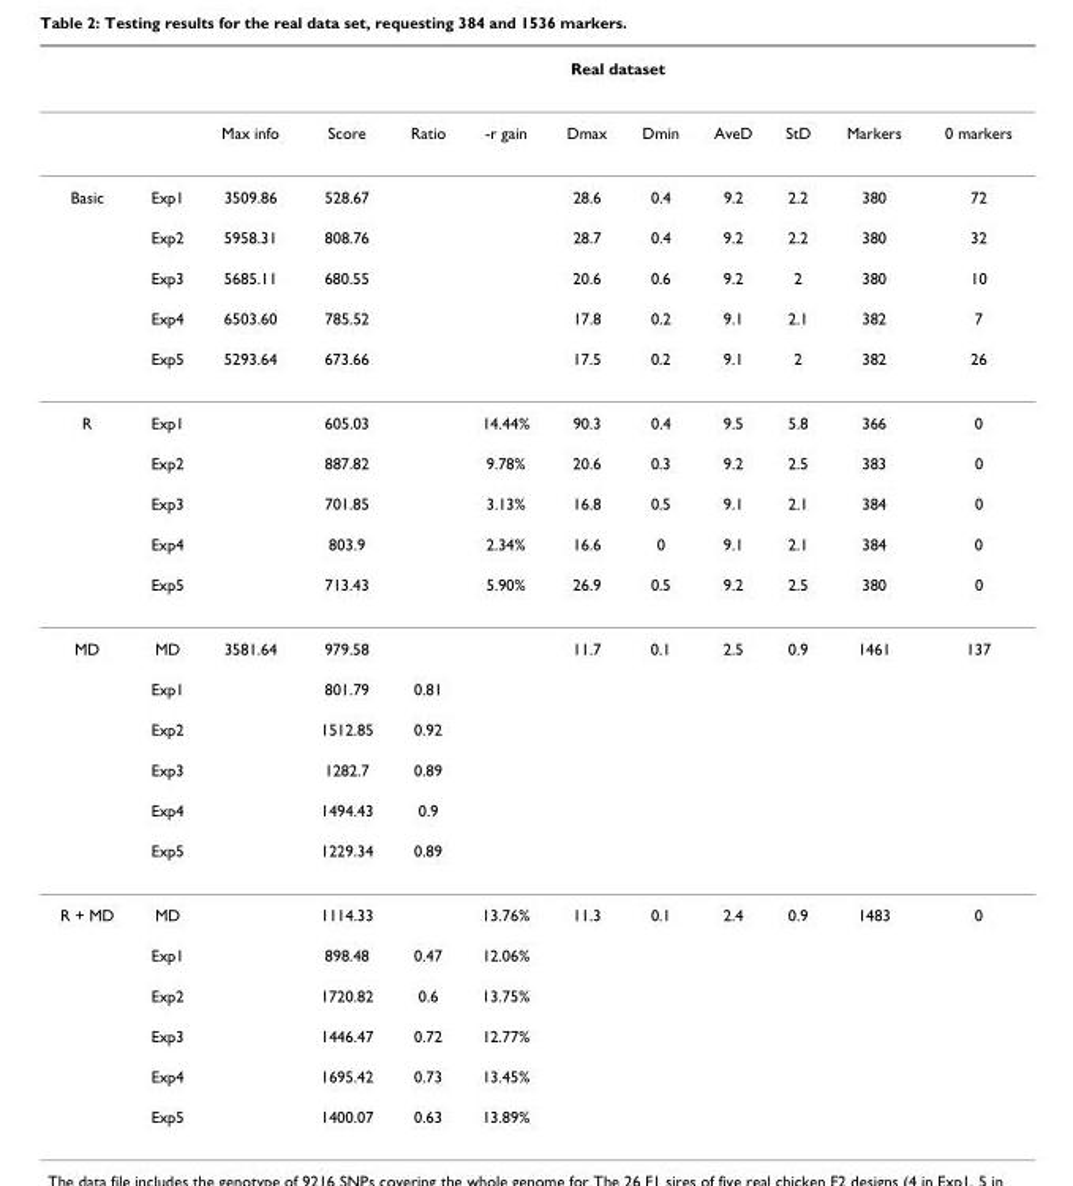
<table><thead><tr><td rowspan="2"></td><td rowspan="2"></td><td colspan="10">Real dataset</td></tr><tr><td>Max info</td><td>Score</td><td>Ratio</td><td>-r gain</td><td>Dmax</td><td>Dmin</td><td>AveD</td><td>StD</td><td>Markers</td><td>0 markers</td></tr></thead><tbody><tr><td rowspan="5">Basic</td><td>Exp1</td><td>3509.86</td><td>528.67</td><td></td><td></td><td>28.6</td><td>0.4</td><td>9.2</td><td>2.2</td><td>380</td><td>72</td></tr><tr><td>Exp2</td><td>5958.31</td><td>808.76</td><td></td><td></td><td>28.7</td><td>0.4</td><td>9.2</td><td>2.2</td><td>380</td><td>32</td></tr><tr><td>Exp3</td><td>5685.11</td><td>680.55</td><td></td><td></td><td>20.6</td><td>0.6</td><td>9.2</td><td>2</td><td>380</td><td>10</td></tr><tr><td>Exp4</td><td>6503.60</td><td>785.52</td><td></td><td></td><td>17.8</td><td>0.2</td><td>9.1</td><td>2.1</td><td>382</td><td>7</td></tr><tr><td>Exp5</td><td>5293.64</td><td>673.66</td><td></td><td></td><td>17.5</td><td>0.2</td><td>9.1</td><td>2</td><td>382</td><td>26</td></tr><tr><td rowspan="5">R</td><td>Exp1</td><td></td><td>605.03</td><td></td><td>14.44%</td><td>90.3</td><td>0.4</td><td>9.5</td><td>5.8</td><td>366</td><td>0</td></tr><tr><td>Exp2</td><td></td><td>887.82</td><td></td><td>9.78%</td><td>20.6</td><td>0.3</td><td>9.2</td><td>2.5</td><td>383</td><td>0</td></tr><tr><td>Exp3</td><td></td><td>701.85</td><td></td><td>3.13%</td><td>16.8</td><td>0.5</td><td>9.1</td><td>2.1</td><td>384</td><td>0</td></tr><tr><td>Exp4</td><td></td><td>803.9</td><td></td><td>2.34%</td><td>16.6</td><td>0</td><td>9.1</td><td>2.1</td><td>384</td><td>0</td></tr><tr><td>Exp5</td><td></td><td>713.43</td><td></td><td>5.90%</td><td>26.9</td><td>0.5</td><td>9.2</td><td>2.5</td><td>380</td><td>0</td></tr><tr><td rowspan="6">MD</td><td>MD</td><td>3581.64</td><td>979.58</td><td></td><td></td><td>11.7</td><td>0.1</td><td>2.5</td><td>0.9</td><td>1461</td><td>137</td></tr><tr><td>Exp1</td><td></td><td>801.79</td><td>0.81</td><td></td><td></td><td></td><td></td><td></td><td></td><td></td></tr><tr><td>Exp2</td><td></td><td>1512.85</td><td>0.92</td><td></td><td></td><td></td><td></td><td></td><td></td><td></td></tr><tr><td>Exp3</td><td></td><td>1282.7</td><td>0.89</td><td></td><td></td><td></td><td></td><td></td><td></td><td></td></tr><tr><td>Exp4</td><td></td><td>1494.43</td><td>0.9</td><td></td><td></td><td></td><td></td><td></td><td></td><td></td></tr><tr><td>Exp5</td><td></td><td>1229.34</td><td>0.89</td><td></td><td></td><td></td><td></td><td></td><td></td><td></td></tr><tr><td rowspan="6">R + MD</td><td>MD</td><td></td><td>1114.33</td><td></td><td>13.76%</td><td>11.3</td><td>0.1</td><td>2.4</td><td>0.9</td><td>1483</td><td>0</td></tr><tr><td>Exp1</td><td></td><td>898.48</td><td>0.47</td><td>12.06%</td><td></td><td></td><td></td><td></td><td></td><td></td></tr><tr><td>Exp2</td><td></td><td>1720.82</td><td>0.6</td><td>13.75%</td><td></td><td></td><td></td><td></td><td></td><td></td></tr><tr><td>Exp3</td><td></td><td>1446.47</td><td>0.72</td><td>12.77%</td><td></td><td></td><td></td><td></td><td></td><td></td></tr><tr><td>Exp4</td><td></td><td>1695.42</td><td>0.73</td><td>13.45%</td><td></td><td></td><td></td><td></td><td></td><td></td></tr><tr><td>Exp5</td><td></td><td>1400.07</td><td>0.63</td><td>13.89%</td><td></td><td></td><td></td><td></td><td></td><td></td></tr></tbody></table>